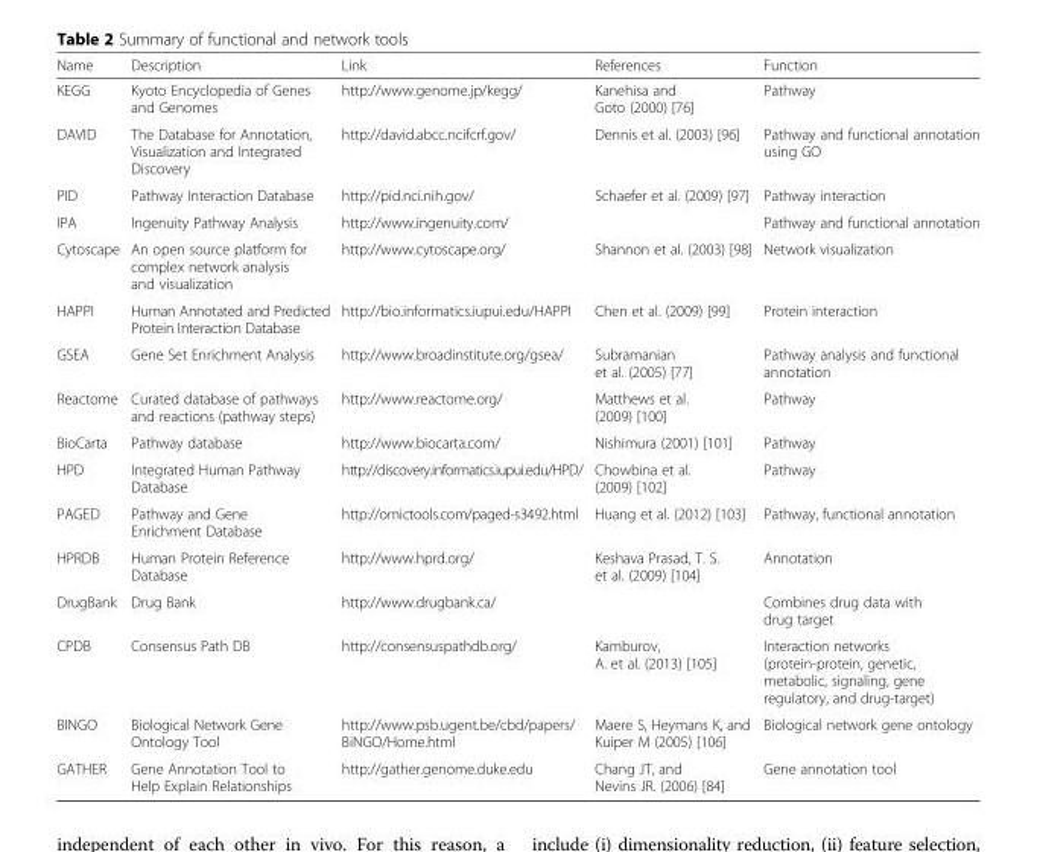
<table><thead><tr><td>Name</td><td>Description</td><td>Link</td><td>References</td><td>Function</td></tr></thead><tbody><tr><td>KEGG</td><td>Kyoto Encyclopedia of Genes and Genomes</td><td>http://www.genome.jp/kegg/</td><td>Kanehisa and Goto (2000) [76]</td><td>Pathway</td></tr><tr><td>DAVID</td><td>The Database for Annotation, Visualization and Integrated Discovery</td><td>http://david.abcc.ncifcrf.gov/</td><td>Dennis et al. (2003) [96]</td><td>Pathway and functional annotation using GO</td></tr><tr><td>PID</td><td>Pathway Interaction Database</td><td>http://pid.nci.nih.gov/</td><td>Schaefer et al. (2009) [97]</td><td>Pathway interaction</td></tr><tr><td>IPA</td><td>Ingenuity Pathway Analysis</td><td>http://www.ingenuity.com/</td><td></td><td>Pathway and functional annotation</td></tr><tr><td>Cytoscape</td><td>An open source platform for complex network analysis and visualization</td><td>http://www.cytoscape.org/</td><td>Shannon et al. (2003) [98]</td><td>Network visualization</td></tr><tr><td>HAPPI</td><td>Human Annotated and Predicted Protein Interaction Database</td><td>http://bio.informatics.iupui.edu/HAPPI</td><td>Chen et al. (2009) [99]</td><td>Protein interaction</td></tr><tr><td>GSEA</td><td>Gene Set Enrichment Analysis</td><td>http://www.broadinstitute.org/gsea/</td><td>Subramanian et al. (2005) [77]</td><td>Pathway analysis and functional annotation</td></tr><tr><td>Reactome</td><td>Curated database of pathways and reactions (pathway steps)</td><td>http://www.reactome.org/</td><td>Matthews et al. (2009) [100]</td><td>Pathway</td></tr><tr><td>BioCarta</td><td>Pathway database</td><td>http://www.biocarta.com/</td><td>Nishimura (2001) [101]</td><td>Pathway</td></tr><tr><td>HPD</td><td>Integrated Human Pathway Database</td><td>http://discovery.informatics.iupui.edu/HPD/</td><td>Chowbina et al. (2009) [102]</td><td>Pathway</td></tr><tr><td>PAGED</td><td>Pathway and Gene Enrichment Database</td><td>http://omictools.com/paged-s3492.html</td><td>Huang et al. (2012) [103]</td><td>Pathway, functional annotation</td></tr><tr><td>HPRDB</td><td>Human Protein Reference Database</td><td>http://www.hprd.org/</td><td>Keshava Prasad, T. S. et al. (2009) [104]</td><td>Annotation</td></tr><tr><td>DrugBank</td><td>Drug Bank</td><td>http://www.drugbank.ca/</td><td></td><td>Combines drug data with drug target</td></tr><tr><td>CPDB</td><td>Consensus Path DB</td><td>http://consensuspathdb.org/</td><td>Kamburov, A. et al. (2013) [105]</td><td>Interaction networks (protein-protein, genetic, metabolic, signaling, gene regulatory, and drug-target)</td></tr><tr><td>BINGO</td><td>Biological Network Gene Ontology Tool</td><td>http://www.psb.ugent.be/cbd/papers/ BiNGO/Home.html</td><td>Maere S, Heymans K, and Kuiper M (2005) [106]</td><td>Biological network gene ontology</td></tr><tr><td>GATHER</td><td>Gene Annotation Tool to Help Explain Relationships</td><td>http://gather.genome.duke.edu</td><td>Chang JT, and Nevins JR. (2006) [84]</td><td>Gene annotation tool</td></tr></tbody></table>